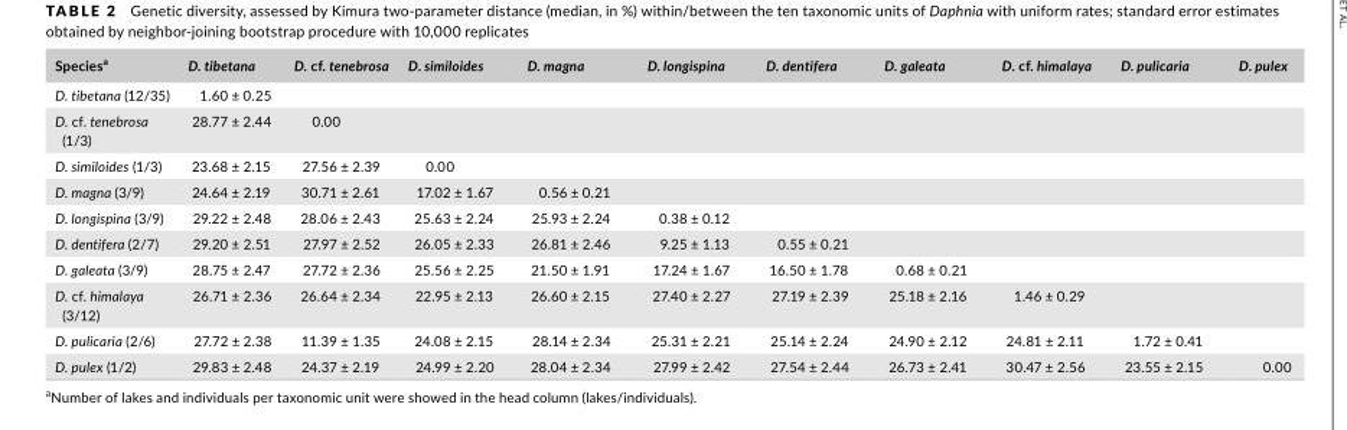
<table><thead><tr><td>Species<sup>a</sup></td><td>D. tibetana</td><td>D. cf. tenebrosa</td><td>D. similoides</td><td>D. magna</td><td>D. longispina</td><td>D. dentifera</td><td>D. galeata</td><td>D. cf. himalaya</td><td>D. pulicaria</td><td>D. pulex</td></tr></thead><tbody><tr><td>D. tibetana (12/35)</td><td>1.60 ± 0.25</td><td></td><td></td><td></td><td></td><td></td><td></td><td></td><td></td><td></td></tr><tr><td>D. cf. tenebrosa (1/3)</td><td>28.77 ± 2.44</td><td>0.00</td><td></td><td></td><td></td><td></td><td></td><td></td><td></td><td></td></tr><tr><td>D. similoides (1/3)</td><td>23.68 ± 2.15</td><td>27.56 ± 2.39</td><td>0.00</td><td></td><td></td><td></td><td></td><td></td><td></td><td></td></tr><tr><td>D. magna (3/9)</td><td>24.64 ± 2.19</td><td>30.71 ± 2.61</td><td>17.02 ± 1.67</td><td>0.56 ± 0.21</td><td></td><td></td><td></td><td></td><td></td><td></td></tr><tr><td>D. longispina (3/9)</td><td>29.22 ± 2.48</td><td>28.06 ± 2.43</td><td>25.63 ± 2.24</td><td>25.93 ± 2.24</td><td>0.38 ± 0.12</td><td></td><td></td><td></td><td></td><td></td></tr><tr><td>D. dentifera (2/7)</td><td>29.20 ± 2.51</td><td>27.97 ± 2.52</td><td>26.05 ± 2.33</td><td>26.81 ± 2.46</td><td>9.25 ± 1.13</td><td>0.55 ± 0.21</td><td></td><td></td><td></td><td></td></tr><tr><td>D. galeata (3/9)</td><td>28.75 ± 2.47</td><td>27.72 ± 2.36</td><td>25.56 ± 2.25</td><td>21.50 ± 1.91</td><td>17.24 ± 1.67</td><td>16.50 ± 1.78</td><td>0.68 ± 0.21</td><td></td><td></td><td></td></tr><tr><td>D. cf. himalaya (3/12)</td><td>26.71 ± 2.36</td><td>26.64 ± 2.34</td><td>22.95 ± 2.13</td><td>26.60 ± 2.15</td><td>27.40 ± 2.27</td><td>27.19 ± 2.39</td><td>25.18 ± 2.16</td><td>1.46 ± 0.29</td><td></td><td></td></tr><tr><td>D. pulicaria (2/6)</td><td>27.72 ± 2.38</td><td>11.39 ± 1.35</td><td>24.08 ± 2.15</td><td>28.14 ± 2.34</td><td>25.31 ± 2.21</td><td>25.14 ± 2.24</td><td>24.90 ± 2.12</td><td>24.81 ± 2.11</td><td>1.72 ± 0.41</td><td></td></tr><tr><td>D. pulex (1/2)</td><td>29.83 ± 2.48</td><td>24.37 ± 2.19</td><td>24.99 ± 2.20</td><td>28.04 ± 2.34</td><td>27.99 ± 2.42</td><td>27.54 ± 2.44</td><td>26.73 ± 2.41</td><td>30.47 ± 2.56</td><td>23.55 ± 2.15</td><td>0.00</td></tr></tbody></table>